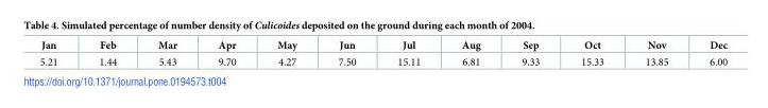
<table><thead><tr><td>Jan</td><td>Feb</td><td>Mar</td><td>Apr</td><td>May</td><td>Jun</td><td>Jul</td><td>Aug</td><td>Sep</td><td>Oct</td><td>Nov</td><td>Dec</td></tr></thead><tbody><tr><td>5.21</td><td>1.44</td><td>5.43</td><td>9.70</td><td>4.27</td><td>7.50</td><td>15.11</td><td>6.81</td><td>9.33</td><td>15.33</td><td>13.85</td><td>6.00</td></tr></tbody></table>